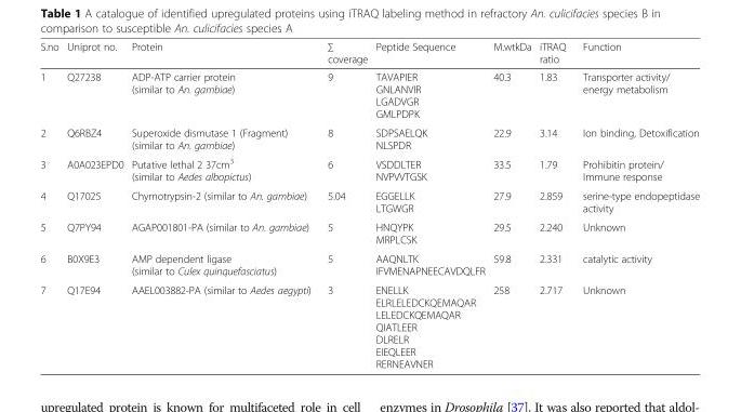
<table><thead><tr><td>S.no</td><td>Uniprot no.</td><td>Protein</td><td>∑ coverage</td><td>Peptide Sequence</td><td>M.wtkDa</td><td>iTRAQ ratio</td><td>Function</td></tr></thead><tbody><tr><td>1</td><td>Q27238</td><td>ADP-ATP carrier protein (similar to An. gambiae)</td><td>9</td><td>TAVAPIER GNLANVIR LGADVGR GMLPDPK</td><td>40.3</td><td>1.83</td><td>Transporter activity/ energy metabolism</td></tr><tr><td>2</td><td>Q6RBZ4</td><td>Superoxide dismutase 1 (Fragment) (similar to An. gambiae)</td><td>8</td><td>SDPSAELQK NLSPDR</td><td>22.9</td><td>3.14</td><td>Ion binding, Detoxification</td></tr><tr><td>3</td><td>A0A023EPD0</td><td>Putative lethal 2 37cm<sup>3</sup> (similar to Aedes albopictus)</td><td>6</td><td>VSDDLTER NVPVVTGSK</td><td>33.5</td><td>1.79</td><td>Prohibitin protein/ Immune response</td></tr><tr><td>4</td><td>Q17025</td><td>Chymotrypsin-2 (similar to An. gambiae)</td><td>5.04</td><td>EGGELLK LTGWGR</td><td>27.9</td><td>2.859</td><td>serine-type endopeptidase activity</td></tr><tr><td>5</td><td>Q7PY94</td><td>AGAP001801-PA (similar to An. gambiae)</td><td>5</td><td>HNQYPK MRPLCSK</td><td>29.5</td><td>2.240</td><td>Unknown</td></tr><tr><td>6</td><td>B0X9E3</td><td>AMP dependent ligase (similar to Culex quinquefasciatus)</td><td>5</td><td>AAQNLTK IFVMENAPNEECAVDQLFR</td><td>59.8</td><td>2.331</td><td>catalytic activity</td></tr><tr><td>7</td><td>Q17E94</td><td>AAEL003882-PA (similar to Aedes aegypti)</td><td>3</td><td>ENELLK ELRLELEDCKQEMAQAR LELEDCKQEMAQAR QIATLEER DLRELR EIEQLEER RERNEAVNER</td><td>258</td><td>2.717</td><td>Unknown</td></tr></tbody></table>